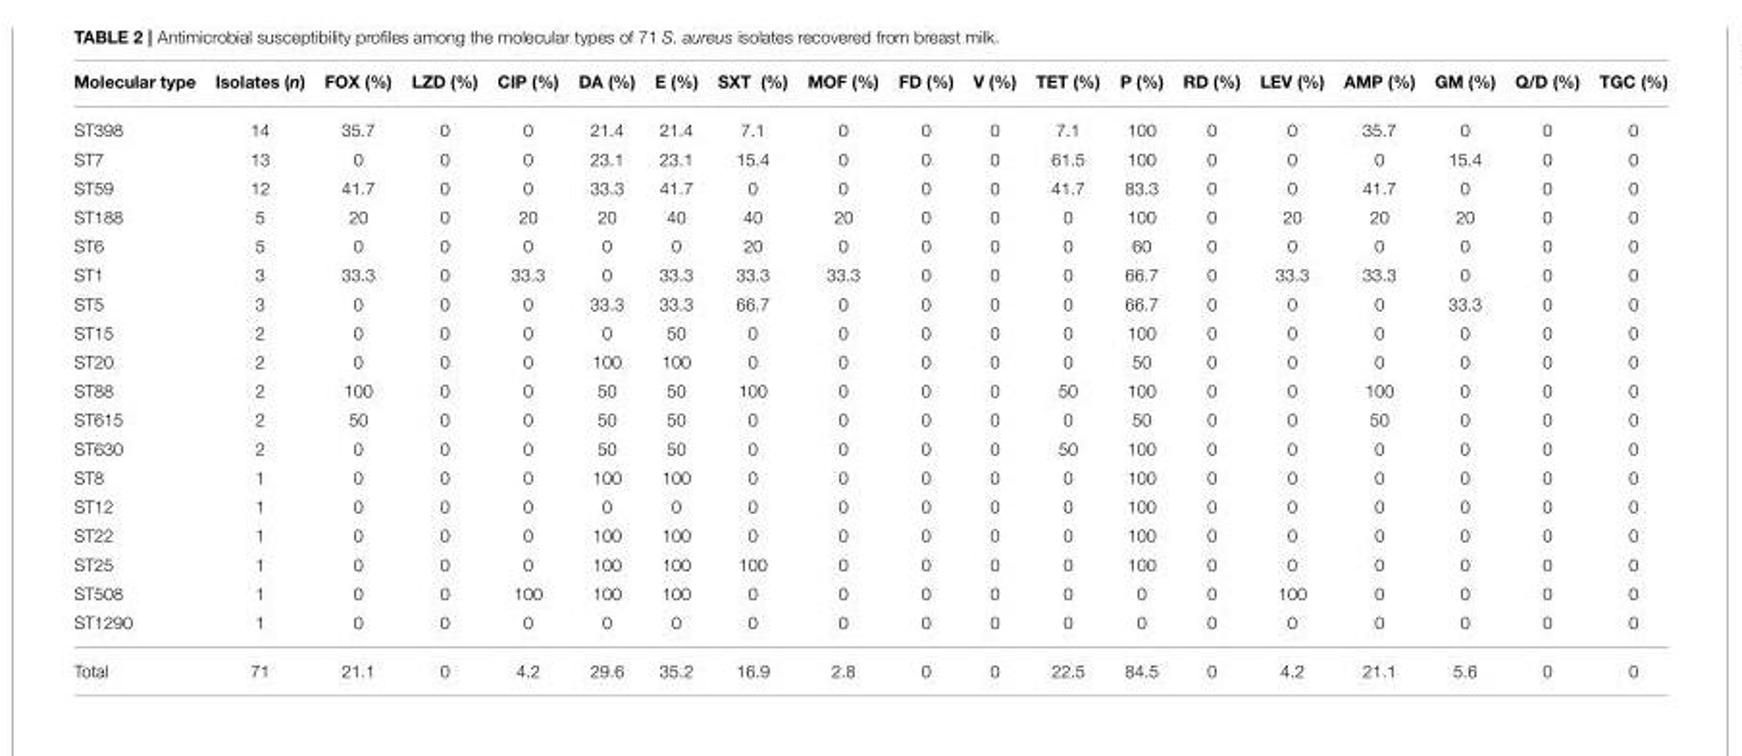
<table><thead><tr><td>Molecular type</td><td>Isolates (n)</td><td>FOX (%)</td><td>LZD (%)</td><td>CIP (%)</td><td>DA (%)</td><td>E (%)</td><td>SXT (%)</td><td>MOF (%)</td><td>FD (%)</td><td>V (%)</td><td>TET (%)</td><td>P (%)</td><td>RD (%)</td><td>LEV (%)</td><td>AMP (%)</td><td>GM (%)</td><td>Q/D (%)</td><td>TGC (%)</td></tr></thead><tbody><tr><td>ST398</td><td>14</td><td>35.7</td><td>0</td><td>0</td><td>21.4</td><td>21.4</td><td>7.1</td><td>0</td><td>0</td><td>0</td><td>7.1</td><td>100</td><td>0</td><td>0</td><td>35.7</td><td>0</td><td>0</td><td>0</td></tr><tr><td>ST7</td><td>13</td><td>0</td><td>0</td><td>0</td><td>23.1</td><td>23.1</td><td>15.4</td><td>0</td><td>0</td><td>0</td><td>61.5</td><td>100</td><td>0</td><td>0</td><td>0</td><td>15.4</td><td>0</td><td>0</td></tr><tr><td>ST59</td><td>12</td><td>41.7</td><td>0</td><td>0</td><td>33.3</td><td>41.7</td><td>0</td><td>0</td><td>0</td><td>0</td><td>41.7</td><td>83.3</td><td>0</td><td>0</td><td>41.7</td><td>0</td><td>0</td><td>0</td></tr><tr><td>ST188</td><td>5</td><td>20</td><td>0</td><td>20</td><td>20</td><td>40</td><td>40</td><td>20</td><td>0</td><td>0</td><td>0</td><td>100</td><td>0</td><td>20</td><td>20</td><td>20</td><td>0</td><td>0</td></tr><tr><td>ST6</td><td>5</td><td>0</td><td>0</td><td>0</td><td>0</td><td>0</td><td>20</td><td>0</td><td>0</td><td>0</td><td>0</td><td>60</td><td>0</td><td>0</td><td>0</td><td>0</td><td>0</td><td>0</td></tr><tr><td>ST1</td><td>3</td><td>33.3</td><td>0</td><td>33.3</td><td>0</td><td>33.3</td><td>33.3</td><td>33.3</td><td>0</td><td>0</td><td>0</td><td>66.7</td><td>0</td><td>33.3</td><td>33.3</td><td>0</td><td>0</td><td>0</td></tr><tr><td>ST5</td><td>3</td><td>0</td><td>0</td><td>0</td><td>33.3</td><td>33.3</td><td>66.7</td><td>0</td><td>0</td><td>0</td><td>0</td><td>66.7</td><td>0</td><td>0</td><td>0</td><td>33.3</td><td>0</td><td>0</td></tr><tr><td>ST15</td><td>2</td><td>0</td><td>0</td><td>0</td><td>0</td><td>50</td><td>0</td><td>0</td><td>0</td><td>0</td><td>0</td><td>100</td><td>0</td><td>0</td><td>0</td><td>0</td><td>0</td><td>0</td></tr><tr><td>ST20</td><td>2</td><td>0</td><td>0</td><td>0</td><td>100</td><td>100</td><td>0</td><td>0</td><td>0</td><td>0</td><td>0</td><td>50</td><td>0</td><td>0</td><td>0</td><td>0</td><td>0</td><td>0</td></tr><tr><td>ST88</td><td>2</td><td>100</td><td>0</td><td>0</td><td>50</td><td>50</td><td>100</td><td>0</td><td>0</td><td>0</td><td>50</td><td>100</td><td>0</td><td>0</td><td>100</td><td>0</td><td>0</td><td>0</td></tr><tr><td>ST615</td><td>2</td><td>50</td><td>0</td><td>0</td><td>50</td><td>50</td><td>0</td><td>0</td><td>0</td><td>0</td><td>0</td><td>50</td><td>0</td><td>0</td><td>50</td><td>0</td><td>0</td><td>0</td></tr><tr><td>ST630</td><td>2</td><td>0</td><td>0</td><td>0</td><td>50</td><td>50</td><td>0</td><td>0</td><td>0</td><td>0</td><td>50</td><td>100</td><td>0</td><td>0</td><td>0</td><td>0</td><td>0</td><td>0</td></tr><tr><td>ST8</td><td>1</td><td>0</td><td>0</td><td>0</td><td>100</td><td>100</td><td>0</td><td>0</td><td>0</td><td>0</td><td>0</td><td>100</td><td>0</td><td>0</td><td>0</td><td>0</td><td>0</td><td>0</td></tr><tr><td>ST12</td><td>1</td><td>0</td><td>0</td><td>0</td><td>0</td><td>0</td><td>0</td><td>0</td><td>0</td><td>0</td><td>0</td><td>100</td><td>0</td><td>0</td><td>0</td><td>0</td><td>0</td><td>0</td></tr><tr><td>ST22</td><td>1</td><td>0</td><td>0</td><td>0</td><td>100</td><td>100</td><td>0</td><td>0</td><td>0</td><td>0</td><td>0</td><td>100</td><td>0</td><td>0</td><td>0</td><td>0</td><td>0</td><td>0</td></tr><tr><td>ST25</td><td>1</td><td>0</td><td>0</td><td>0</td><td>100</td><td>100</td><td>100</td><td>0</td><td>0</td><td>0</td><td>0</td><td>100</td><td>0</td><td>0</td><td>0</td><td>0</td><td>0</td><td>0</td></tr><tr><td>ST508</td><td>1</td><td>0</td><td>0</td><td>100</td><td>100</td><td>100</td><td>0</td><td>0</td><td>0</td><td>0</td><td>0</td><td>0</td><td>0</td><td>100</td><td>0</td><td>0</td><td>0</td><td>0</td></tr><tr><td>ST1290</td><td>1</td><td>0</td><td>0</td><td>0</td><td>0</td><td>0</td><td>0</td><td>0</td><td>0</td><td>0</td><td>0</td><td>0</td><td>0</td><td>0</td><td>0</td><td>0</td><td>0</td><td>0</td></tr><tr><td>Total</td><td>71</td><td>21.1</td><td>0</td><td>4.2</td><td>29.6</td><td>35.2</td><td>16.9</td><td>2.8</td><td>0</td><td>0</td><td>22.5</td><td>84.5</td><td>0</td><td>4.2</td><td>21.1</td><td>5.6</td><td>0</td><td>0</td></tr></tbody></table>